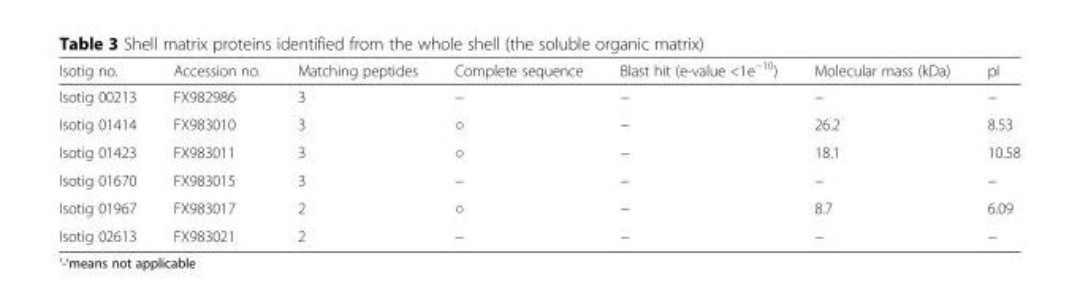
<table><thead><tr><td>Isotig no.</td><td>Accession no.</td><td>Matching peptides</td><td>Complete sequence</td><td>Blast hit (e-value &lt;1e<sup>−10</sup>)</td><td>Molecular mass (kDa)</td><td>pI</td></tr></thead><tbody><tr><td>Isotig 00213</td><td>FX982986</td><td>3</td><td>−</td><td>−</td><td>−</td><td>−</td></tr><tr><td>Isotig 01414</td><td>FX983010</td><td>3</td><td>○</td><td>−</td><td>26.2</td><td>8.53</td></tr><tr><td>Isotig 01423</td><td>FX983011</td><td>3</td><td>○</td><td>−</td><td>18.1</td><td>10.58</td></tr><tr><td>Isotig 01670</td><td>FX983015</td><td>3</td><td>−</td><td>−</td><td>−</td><td>−</td></tr><tr><td>Isotig 01967</td><td>FX983017</td><td>2</td><td>○</td><td>−</td><td>8.7</td><td>6.09</td></tr><tr><td>Isotig 02613</td><td>FX983021</td><td>2</td><td>−</td><td>−</td><td>−</td><td>−</td></tr></tbody></table>